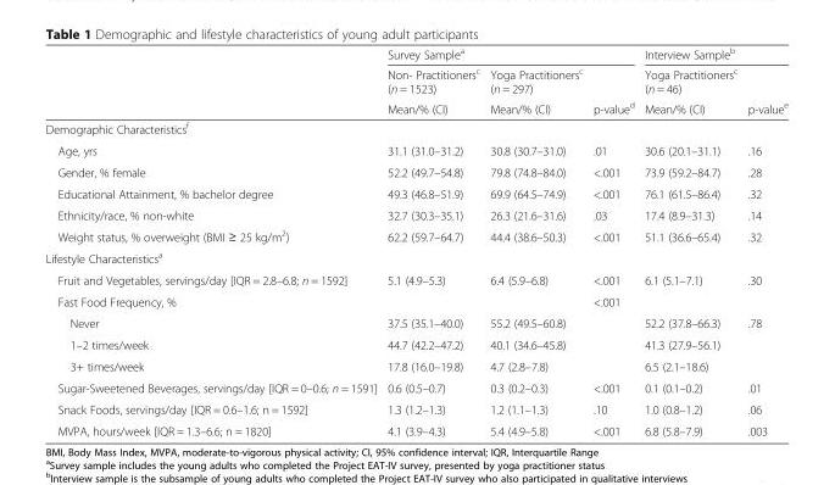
<table><thead><tr><td rowspan="3"></td><td colspan="3">Survey Sample<sup>a</sup></td><td colspan="2">Interview Sample<sup>b</sup></td></tr><tr><td rowspan="2">Non- Practitioners<sup>c</sup> (n = 1523) Mean/% (CI)</td><td rowspan="2">Yoga Practitioners<sup>c</sup> (n = 297) Mean/% (CI)</td><td rowspan="2">p-value<sup>d</sup></td><td rowspan="2">Yoga Practitioners<sup>c</sup> (n = 46) Mean/% (CI)</td><td rowspan="2">p-value<sup>e</sup></td></tr><tr></tr></thead><tbody><tr><td colspan="6">Demographic Characteristics<sup>f</sup></td></tr><tr><td>Age, yrs</td><td>31.1 (31.0–31.2)</td><td>30.8 (30.7–31.0)</td><td>.01</td><td>30.6 (20.1–31.1)</td><td>.16</td></tr><tr><td>Gender, % female</td><td>52.2 (49.7–54.8)</td><td>79.8 (74.8–84.0)</td><td>&lt;.001</td><td>73.9 (59.2–84.7)</td><td>.28</td></tr><tr><td>Educational Attainment, % bachelor degree</td><td>49.3 (46.8–51.9)</td><td>69.9 (64.5–74.9)</td><td>&lt;.001</td><td>76.1 (61.5–86.4)</td><td>.32</td></tr><tr><td>Ethnicity/race, % non-white</td><td>32.7 (30.3–35.1)</td><td>26.3 (21.6–31.6)</td><td>.03</td><td>17.4 (8.9–31.3)</td><td>.14</td></tr><tr><td>Weight status, % overweight (BMI ≥ 25 kg/m<sup>2</sup>)</td><td>62.2 (59.7–64.7)</td><td>44.4 (38.6–50.3)</td><td>&lt;.001</td><td>51.1 (36.6–65.4)</td><td>.32</td></tr><tr><td colspan="6">Lifestyle Characteristics<sup>a</sup></td></tr><tr><td>Fruit and Vegetables, servings/day [IQR = 2.8–6.8; n = 1592]</td><td>5.1 (4.9–5.3)</td><td>6.4 (5.9–6.8)</td><td>&lt;.001</td><td>6.1 (5.1–7.1)</td><td>.30</td></tr><tr><td>Fast Food Frequency, %</td><td></td><td></td><td>&lt;.001</td><td></td><td></td></tr><tr><td>Never</td><td>37.5 (35.1–40.0)</td><td>55.2 (49.5–60.8)</td><td></td><td>52.2 (37.8–66.3)</td><td>.78</td></tr><tr><td>1–2 times/week</td><td>44.7 (42.2–47.2)</td><td>40.1 (34.6–45.8)</td><td></td><td>41.3 (27.9–56.1)</td><td></td></tr><tr><td>3+ times/week</td><td>17.8 (16.0–19.8)</td><td>4.7 (2.8–7.8)</td><td></td><td>6.5 (2.1–18.6)</td><td></td></tr><tr><td>Sugar-Sweetened Beverages, servings/day [IQR = 0–0.6; n = 1591]</td><td>0.6 (0.5–0.7)</td><td>0.3 (0.2–0.3)</td><td>&lt;.001</td><td>0.1 (0.1–0.2)</td><td>.01</td></tr><tr><td>Snack Foods, servings/day [IQR = 0.6–1.6; n = 1592]</td><td>1.3 (1.2–1.3)</td><td>1.2 (1.1–1.3)</td><td>.10</td><td>1.0 (0.8–1.2)</td><td>.06</td></tr><tr><td>MVPA, hours/week [IQR = 1.3–6.6; n = 1820]</td><td>4.1 (3.9–4.3)</td><td>5.4 (4.9–5.8)</td><td>&lt;.001</td><td>6.8 (5.8–7.9)</td><td>.003</td></tr></tbody></table>